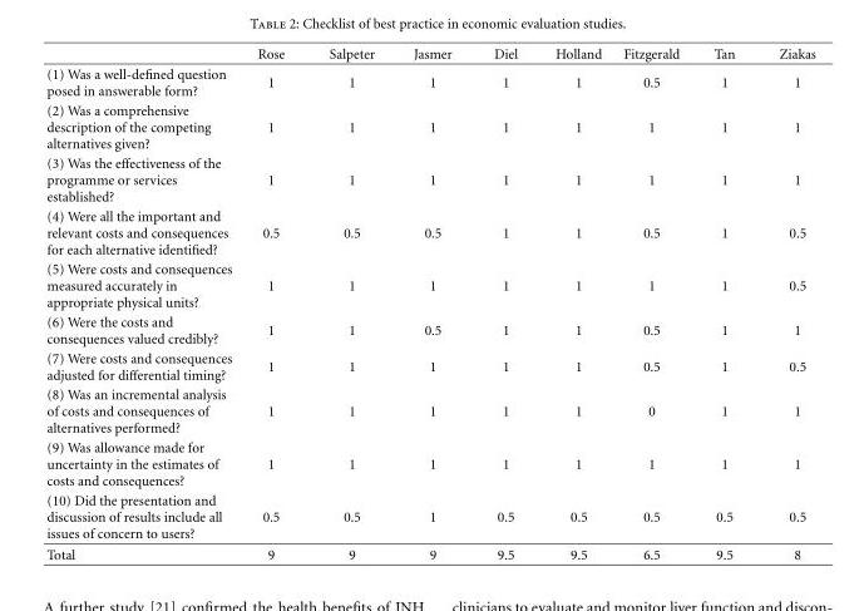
<table><thead><tr><td></td><td>Rose</td><td>Salpeter</td><td>Jasmer</td><td>Diel</td><td>Holland</td><td>Fitzgerald</td><td>Tan</td><td>Ziakas</td></tr></thead><tbody><tr><td>(1) Was a well-defined question posed in answerable form?</td><td>1</td><td>1</td><td>1</td><td>1</td><td>1</td><td>0.5</td><td>1</td><td>1</td></tr><tr><td>(2) Was a comprehensive description of the competing alternatives given?</td><td>1</td><td>1</td><td>1</td><td>1</td><td>1</td><td>1</td><td>1</td><td>1</td></tr><tr><td>(3) Was the effectiveness of the programme or services established?</td><td>1</td><td>1</td><td>1</td><td>1</td><td>1</td><td>1</td><td>1</td><td>1</td></tr><tr><td>(4) Were all the important and relevant costs and consequences for each alternative identified?</td><td>0.5</td><td>0.5</td><td>0.5</td><td>1</td><td>1</td><td>0.5</td><td>1</td><td>0.5</td></tr><tr><td>(5) Were costs and consequences measured accurately in appropriate physical units?</td><td>1</td><td>1</td><td>1</td><td>1</td><td>1</td><td>1</td><td>1</td><td>0.5</td></tr><tr><td>(6) Were the costs and consequences valued credibly?</td><td>1</td><td>1</td><td>0.5</td><td>1</td><td>1</td><td>0.5</td><td>1</td><td>1</td></tr><tr><td>(7) Were costs and consequences adjusted for differential timing?</td><td>1</td><td>1</td><td>1</td><td>1</td><td>1</td><td>0.5</td><td>1</td><td>0.5</td></tr><tr><td>(8) Was an incremental analysis of costs and consequences of alternatives performed?</td><td>1</td><td>1</td><td>1</td><td>1</td><td>1</td><td>0</td><td>1</td><td>1</td></tr><tr><td>(9) Was allowance made for uncertainty in the estimates of costs and consequences?</td><td>1</td><td>1</td><td>1</td><td>1</td><td>1</td><td>1</td><td>1</td><td>1</td></tr><tr><td>(10) Did the presentation and discussion of results include all issues of concern to users?</td><td>0.5</td><td>0.5</td><td>1</td><td>0.5</td><td>0.5</td><td>0.5</td><td>0.5</td><td>0.5</td></tr><tr><td>Total</td><td>9</td><td>9</td><td>9</td><td>9.5</td><td>9.5</td><td>6.5</td><td>9.5</td><td>8</td></tr></tbody></table>